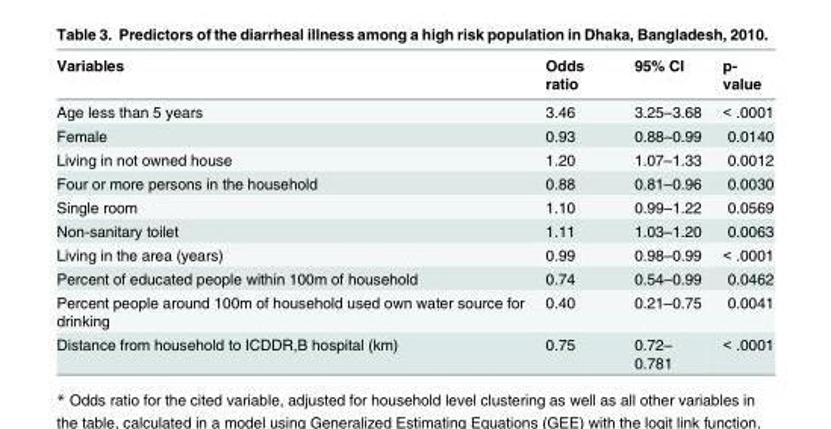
<table><thead><tr><td>Variables</td><td>Odds ratio</td><td>95% CI</td><td>p- value</td></tr></thead><tbody><tr><td>Age less than 5 years</td><td>3.46</td><td>3.25–3.68</td><td>&lt; .0001</td></tr><tr><td>Female</td><td>0.93</td><td>0.88–0.99</td><td>0.0140</td></tr><tr><td>Living in not owned house</td><td>1.20</td><td>1.07–1.33</td><td>0.0012</td></tr><tr><td>Four or more persons in the household</td><td>0.88</td><td>0.81–0.96</td><td>0.0030</td></tr><tr><td>Single room</td><td>1.10</td><td>0.99–1.22</td><td>0.0569</td></tr><tr><td>Non-sanitary toilet</td><td>1.11</td><td>1.03–1.20</td><td>0.0063</td></tr><tr><td>Living in the area (years)</td><td>0.99</td><td>0.98–0.99</td><td>&lt; .0001</td></tr><tr><td>Percent of educated people within 100m of household</td><td>0.74</td><td>0.54–0.99</td><td>0.0462</td></tr><tr><td>Percent people around 100m of household used own water source for drinking</td><td>0.40</td><td>0.21–0.75</td><td>0.0041</td></tr><tr><td>Distance from household to ICDDR,B hospital (km)</td><td>0.75</td><td>0.72– 0.781</td><td>&lt; .0001</td></tr></tbody></table>